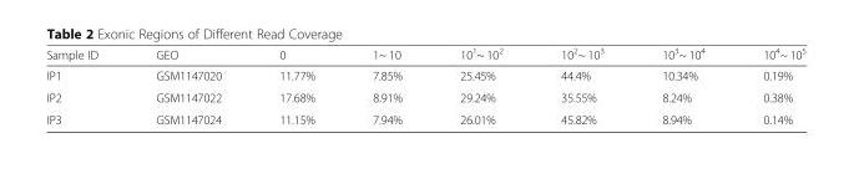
<table><thead><tr><td>Sample ID</td><td>GEO</td><td>0</td><td>1~ 10</td><td>10<sup>1</sup>~ 10<sup>2</sup></td><td>10<sup>2</sup>~ 10<sup>3</sup></td><td>10<sup>3</sup>~ 10<sup>4</sup></td><td>10<sup>4</sup>~ 10<sup>5</sup></td></tr></thead><tbody><tr><td>IP1</td><td>GSM1147020</td><td>11.77%</td><td>7.85%</td><td>25.45%</td><td>44.4%</td><td>10.34%</td><td>0.19%</td></tr><tr><td>IP2</td><td>GSM1147022</td><td>17.68%</td><td>8.91%</td><td>29.24%</td><td>35.55%</td><td>8.24%</td><td>0.38%</td></tr><tr><td>IP3</td><td>GSM1147024</td><td>11.15%</td><td>7.94%</td><td>26.01%</td><td>45.82%</td><td>8.94%</td><td>0.14%</td></tr></tbody></table>